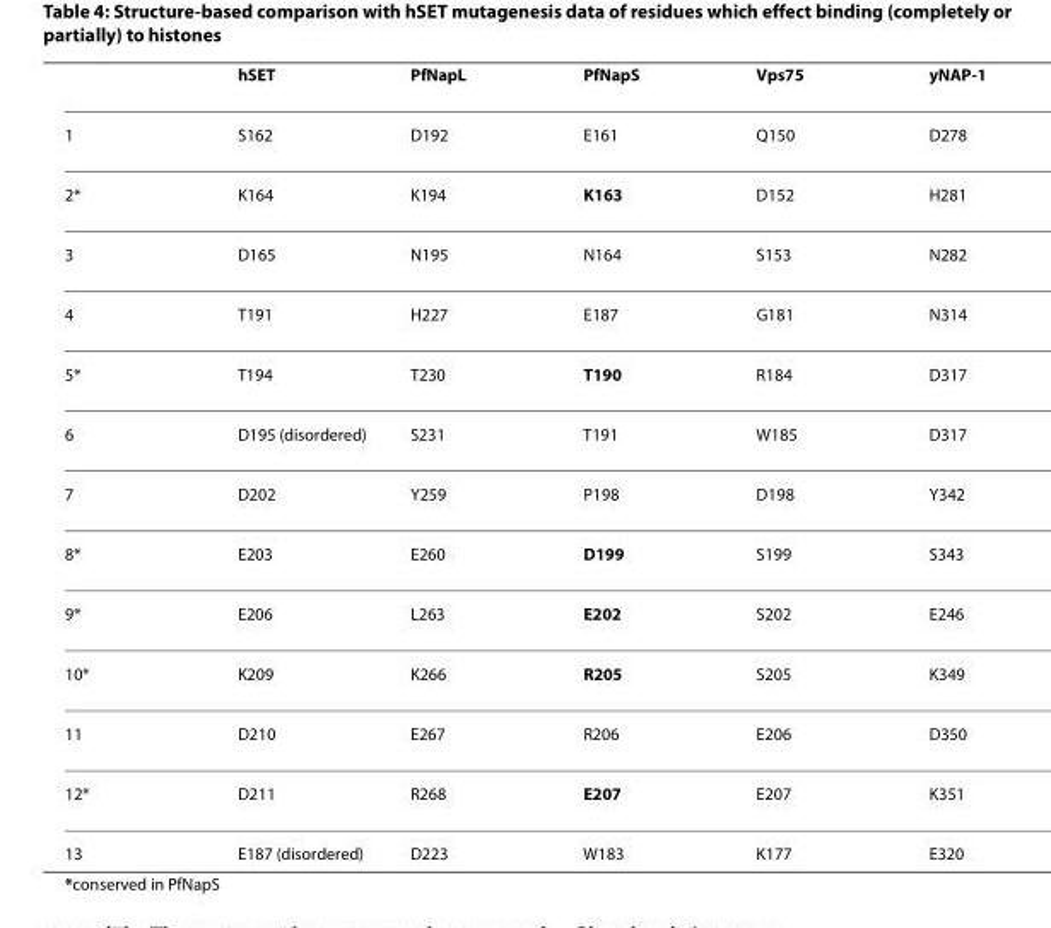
<table><thead><tr><td></td><td>hSET</td><td>PfNapL</td><td>PfNapS</td><td>Vps75</td><td>yNAP-1</td></tr></thead><tbody><tr><td>1</td><td>S162</td><td>D192</td><td>E161</td><td>Q150</td><td>D278</td></tr><tr><td>2*</td><td>K164</td><td>K194</td><td>K163</td><td>D152</td><td>H281</td></tr><tr><td>3</td><td>D165</td><td>N195</td><td>N164</td><td>S153</td><td>N282</td></tr><tr><td>4</td><td>T191</td><td>H227</td><td>E187</td><td>G181</td><td>N314</td></tr><tr><td>5*</td><td>T194</td><td>T230</td><td>T190</td><td>R184</td><td>D317</td></tr><tr><td>6</td><td>D195 (disordered)</td><td>S231</td><td>T191</td><td>W185</td><td>D317</td></tr><tr><td>7</td><td>D202</td><td>Y259</td><td>P198</td><td>D198</td><td>Y342</td></tr><tr><td>8*</td><td>E203</td><td>E260</td><td>D199</td><td>S199</td><td>S343</td></tr><tr><td>9*</td><td>E206</td><td>L263</td><td>E202</td><td>S202</td><td>E246</td></tr><tr><td>10*</td><td>K209</td><td>K266</td><td>R205</td><td>S205</td><td>K349</td></tr><tr><td>11</td><td>D210</td><td>E267</td><td>R206</td><td>E206</td><td>D350</td></tr><tr><td>12*</td><td>D211</td><td>R268</td><td>E207</td><td>E207</td><td>K351</td></tr><tr><td>13</td><td>E187 (disordered)</td><td>D223</td><td>W183</td><td>K177</td><td>E320</td></tr></tbody></table>